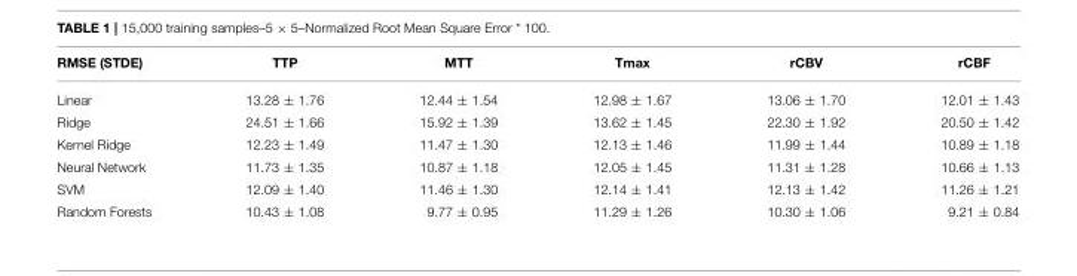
<table><thead><tr><td>RMSE (STDE)</td><td>TTP</td><td>MTT</td><td>Tmax</td><td>rCBV</td><td>rCBF</td></tr></thead><tbody><tr><td>Linear</td><td>13.28 ± 1.76</td><td>12.44 ± 1.54</td><td>12.98 ± 1.67</td><td>13.06 ± 1.70</td><td>12.01 ± 1.43</td></tr><tr><td>Ridge</td><td>24.51 ± 1.66</td><td>15.92 ± 1.39</td><td>13.62 ± 1.45</td><td>22.30 ± 1.92</td><td>20.50 ± 1.42</td></tr><tr><td>Kernel Ridge</td><td>12.23 ± 1.49</td><td>11.47 ± 1.30</td><td>12.13 ± 1.46</td><td>11.99 ± 1.44</td><td>10.89 ± 1.18</td></tr><tr><td>Neural Network</td><td>11.73 ± 1.35</td><td>10.87 ± 1.18</td><td>12.05 ± 1.45</td><td>11.31 ± 1.28</td><td>10.66 ± 1.13</td></tr><tr><td>SVM</td><td>12.09 ± 1.40</td><td>11.46 ± 1.30</td><td>12.14 ± 1.41</td><td>12.13 ± 1.42</td><td>11.26 ± 1.21</td></tr><tr><td>Random Forests</td><td>10.43 ± 1.08</td><td>9.77 ± 0.95</td><td>11.29 ± 1.26</td><td>10.30 ± 1.06</td><td>9.21 ± 0.84</td></tr></tbody></table>